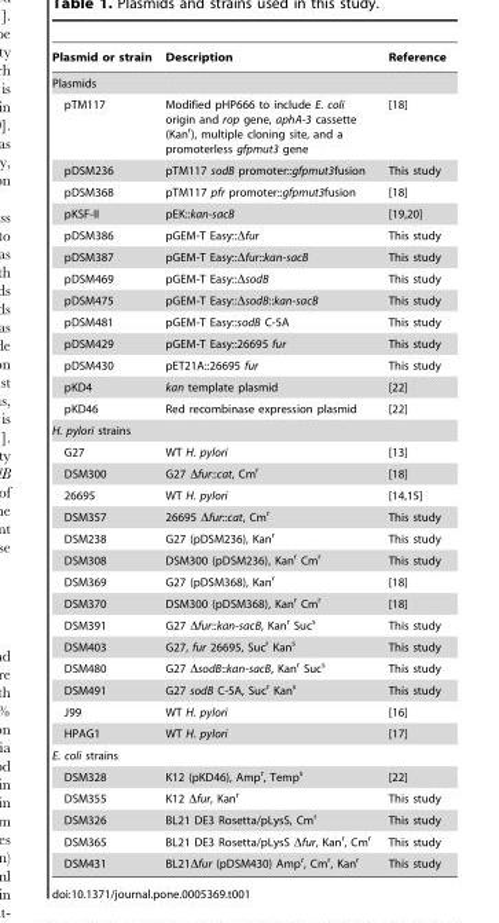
<table><thead><tr><td>Plasmid or strain</td><td>Description</td><td>Reference</td></tr></thead><tbody><tr><td colspan="3">Plasmids</td></tr><tr><td>pTM117</td><td>Modified pHP666 to include E. coli origin and rop gene, aphA-3 cassette (Kan<sup>r</sup>), multiple cloning site, and a promoterless gfpmut3 gene</td><td>[18]</td></tr><tr><td>pDSM236</td><td>pTM117 sodB promoter::gfpmut3fusion</td><td>This study</td></tr><tr><td>pDSM368</td><td>pTM117 pfr promoter::gfpmut3fusion</td><td>[18]</td></tr><tr><td>pKSF-II</td><td>pEK::kan-sacB</td><td>[19,20]</td></tr><tr><td>pDSM386</td><td>pGEM-T Easy::Δfur</td><td>This study</td></tr><tr><td>pDSM387</td><td>pGEM-T Easy::Δfur::kan-sacB</td><td>This study</td></tr><tr><td>pDSM469</td><td>pGEM-T Easy::ΔsodB</td><td>This study</td></tr><tr><td>pDSM475</td><td>pGEM-T Easy::ΔsodB::kan-sacB</td><td>This study</td></tr><tr><td>pDSM481</td><td>pGEM-T Easy::sodB C-5A</td><td>This study</td></tr><tr><td>pDSM429</td><td>pGEM-T Easy::26695 fur</td><td>This study</td></tr><tr><td>pDSM430</td><td>pET21A::26695 fur</td><td>This study</td></tr><tr><td>pKD4</td><td>kan template plasmid</td><td>[22]</td></tr><tr><td>pKD46</td><td>Red recombinase expression plasmid</td><td>[22]</td></tr><tr><td colspan="3">H. pylori strains</td></tr><tr><td>G27</td><td>WT H. pylori</td><td>[13]</td></tr><tr><td>DSM300</td><td>G27 Δfur::cat, Cm<sup>r</sup></td><td>[18]</td></tr><tr><td>26695</td><td>WT H. pylori</td><td>[14,15]</td></tr><tr><td>DSM357</td><td>26695 Δfur::cat, Cm<sup>r</sup></td><td>This study</td></tr><tr><td>DSM238</td><td>G27 (pDSM236), Kan<sup>r</sup></td><td>This study</td></tr><tr><td>DSM308</td><td>DSM300 (pDSM236), Kan<sup>r</sup> Cm<sup>r</sup></td><td>This study</td></tr><tr><td>DSM369</td><td>G27 (pDSM368), Kan<sup>r</sup></td><td>[18]</td></tr><tr><td>DSM370</td><td>DSM300 (pDSM368), Kan<sup>r</sup> Cm<sup>r</sup></td><td>[18]</td></tr><tr><td>DSM391</td><td>G27 Δfur::kan-sacB, Kan<sup>r</sup> Suc<sup>s</sup></td><td>This study</td></tr><tr><td>DSM403</td><td>G27, fur 26695, Suc<sup>r</sup> Kan<sup>s</sup></td><td>This study</td></tr><tr><td>DSM480</td><td>G27 ΔsodB::kan-sacB, Kan<sup>r</sup> Suc<sup>s</sup></td><td>This study</td></tr><tr><td>DSM491</td><td>G27 sodB C-5A, Suc<sup>r</sup> Kan<sup>s</sup></td><td>This study</td></tr><tr><td>J99</td><td>WT H. pylori</td><td>[16]</td></tr><tr><td>HPAG1</td><td>WT H. pylori</td><td>[17]</td></tr><tr><td colspan="3">E. coli strains</td></tr><tr><td>DSM328</td><td>K12 (pKD46), Amp<sup>r</sup>, Temp<sup>s</sup></td><td>[22]</td></tr><tr><td>DSM355</td><td>K12 Δfur, Kan<sup>r</sup></td><td>This study</td></tr><tr><td>DSM326</td><td>BL21 DE3 Rosetta/pLysS, Cm<sup>r</sup></td><td>This study</td></tr><tr><td>DSM365</td><td>BL21 DE3 Rosetta/pLysS Δfur, Kan<sup>r</sup>, Cm<sup>r</sup></td><td>This study</td></tr><tr><td>DSM431</td><td>BL21Δfur (pDSM430) Amp<sup>r</sup>, Cm<sup>r</sup>, Kan<sup>r</sup></td><td>This study</td></tr></tbody></table>